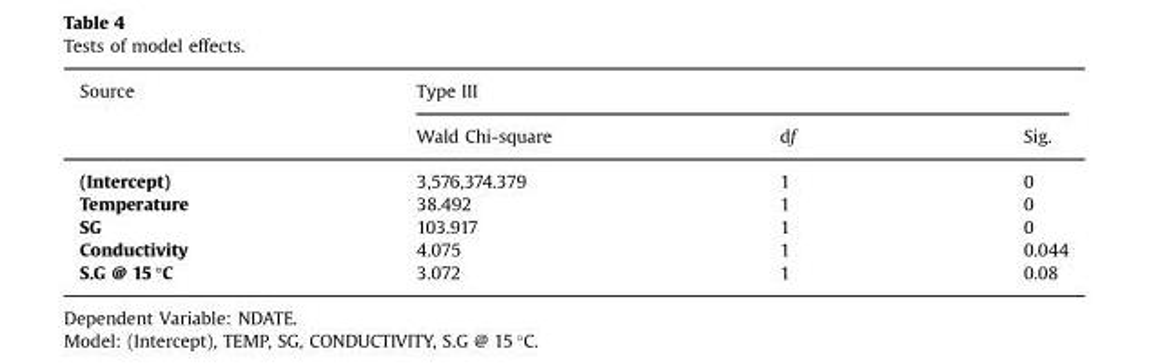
<table><thead><tr><td rowspan="2">Source</td><td colspan="3">Type III</td></tr><tr><td>Wald Chi-square</td><td>df</td><td>Sig.</td></tr></thead><tbody><tr><td>(Intercept)</td><td>3,576,374.379</td><td>1</td><td>0</td></tr><tr><td>Temperature</td><td>38.492</td><td>1</td><td>0</td></tr><tr><td>SG</td><td>103.917</td><td>1</td><td>0</td></tr><tr><td>Conductivity</td><td>4.075</td><td>1</td><td>0.044</td></tr><tr><td>S.G @ 15 °C</td><td>3.072</td><td>1</td><td>0.08</td></tr></tbody></table>